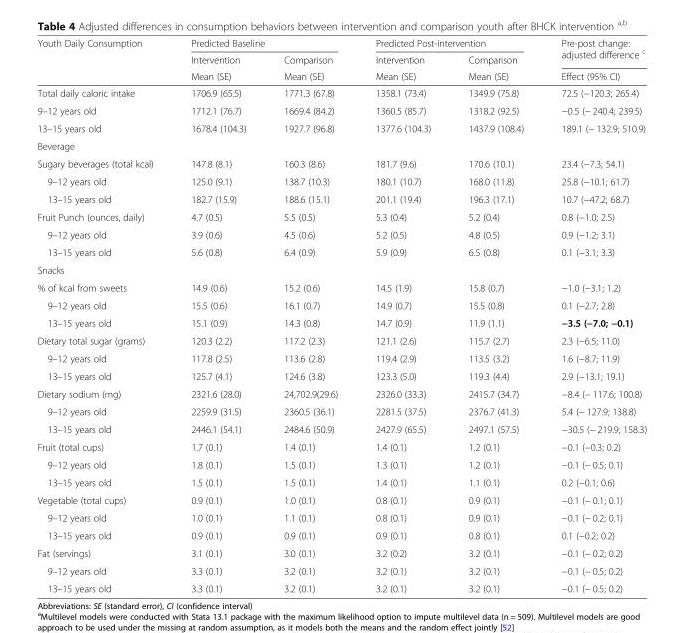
<table><thead><tr><td rowspan="3">Youth Daily Consumption</td><td colspan="2">Predicted Baseline</td><td colspan="2">Predicted Post-intervention</td><td rowspan="3">Pre-post change: adjusted difference <sup>c</sup> Effect (95% CI)</td></tr><tr><td rowspan="2">Intervention Mean (SE)</td><td rowspan="2">Comparison Mean (SE)</td><td rowspan="2">Intervention Mean (SE)</td><td rowspan="2">Comparison Mean (SE)</td></tr><tr></tr></thead><tbody><tr><td>Total daily caloric intake</td><td>1706.9 (65.5)</td><td>1771.3 (67.8)</td><td>1358.1 (73.4)</td><td>1349.9 (75.8)</td><td>72.5 (−120.3; 265.4)</td></tr><tr><td>9–12 years old</td><td>1712.1 (76.7)</td><td>1669.4 (84.2)</td><td>1360.5 (85.7)</td><td>1318.2 (92.5)</td><td>−0.5 (− 240.4; 239.5)</td></tr><tr><td>13–15 years old</td><td>1678.4 (104.3)</td><td>1927.7 (96.8)</td><td>1377.6 (104.3)</td><td>1437.9 (108.4)</td><td>189.1 (− 132.9; 510.9)</td></tr><tr><td colspan="6">Beverage</td></tr><tr><td>Sugary beverages (total kcal)</td><td>147.8 (8.1)</td><td>160.3 (8.6)</td><td>181.7 (9.6)</td><td>170.6 (10.1)</td><td>23.4 (−7.3; 54.1)</td></tr><tr><td>9–12 years old</td><td>125.0 (9.1)</td><td>138.7 (10.3)</td><td>180.1 (10.7)</td><td>168.0 (11.8)</td><td>25.8 (−10.1; 61.7)</td></tr><tr><td>13–15 years old</td><td>182.7 (15.9)</td><td>188.6 (15.1)</td><td>201.1 (19.4)</td><td>196.3 (17.1)</td><td>10.7 (−47.2; 68.7)</td></tr><tr><td>Fruit Punch (ounces, daily)</td><td>4.7 (0.5)</td><td>5.5 (0.5)</td><td>5.3 (0.4)</td><td>5.2 (0.4)</td><td>0.8 (−1.0; 2.5)</td></tr><tr><td>9–12 years old</td><td>3.9 (0.6)</td><td>4.5 (0.6)</td><td>5.2 (0.5)</td><td>4.8 (0.5)</td><td>0.9 (−1.2; 3.1)</td></tr><tr><td>13–15 years old</td><td>5.6 (0.8)</td><td>6.4 (0.9)</td><td>5.9 (0.9)</td><td>6.5 (0.8)</td><td>0.1 (−3.1; 3.3)</td></tr><tr><td colspan="6">Snacks</td></tr><tr><td>% of kcal from sweets</td><td>14.9 (0.6)</td><td>15.2 (0.6)</td><td>14.5 (1.9)</td><td>15.8 (0.7)</td><td>−1.0 (−3.1; 1.2)</td></tr><tr><td>9–12 years old</td><td>15.5 (0.6)</td><td>16.1 (0.7)</td><td>14.9 (0.7)</td><td>15.5 (0.8)</td><td>0.1 (−2.7; 2.8)</td></tr><tr><td>13–15 years old</td><td>15.1 (0.9)</td><td>14.3 (0.8)</td><td>14.7 (0.9)</td><td>11.9 (1.1)</td><td>−3.5 (−7.0; −0.1)</td></tr><tr><td>Dietary total sugar (grams)</td><td>120.3 (2.2)</td><td>117.2 (2.3)</td><td>121.1 (2.6)</td><td>115.7 (2.7)</td><td>2.3 (−6.5; 11.0)</td></tr><tr><td>9–12 years old</td><td>117.8 (2.5)</td><td>113.6 (2.8)</td><td>119.4 (2.9)</td><td>113.5 (3.2)</td><td>1.6 (−8.7; 11.9)</td></tr><tr><td>13–15 years old</td><td>125.7 (4.1)</td><td>124.6 (3.8)</td><td>123.3 (5.0)</td><td>119.3 (4.4)</td><td>2.9 (−13.1; 19.1)</td></tr><tr><td>Dietary sodium (mg)</td><td>2321.6 (28.0)</td><td>24,702.9(29.6)</td><td>2326.0 (33.3)</td><td>2415.7 (34.7)</td><td>−8.4 (− 117.6; 100.8)</td></tr><tr><td>9–12 years old</td><td>2259.9 (31.5)</td><td>2360.5 (36.1)</td><td>2281.5 (37.5)</td><td>2376.7 (41.3)</td><td>5.4 (− 127.9; 138.8)</td></tr><tr><td>13–15 years old</td><td>2446.1 (54.1)</td><td>2484.6 (50.9)</td><td>2427.9 (65.5)</td><td>2497.1 (57.5)</td><td>−30.5 (− 219.9; 158.3)</td></tr><tr><td>Fruit (total cups)</td><td>1.7 (0.1)</td><td>1.4 (0.1)</td><td>1.4 (0.1)</td><td>1.2 (0.1)</td><td>−0.1 (−0.3; 0.2)</td></tr><tr><td>9–12 years old</td><td>1.8 (0.1)</td><td>1.5 (0.1)</td><td>1.3 (0.1)</td><td>1.2 (0.1)</td><td>−0.1 (− 0.5; 0.1)</td></tr><tr><td>13–15 years old</td><td>1.5 (0.1)</td><td>1.5 (0.1)</td><td>1.4 (0.1)</td><td>1.1 (0.1)</td><td>0.2 (−0.1; 0.6)</td></tr><tr><td>Vegetable (total cups)</td><td>0.9 (0.1)</td><td>1.0 (0.1)</td><td>0.8 (0.1)</td><td>0.9 (0.1)</td><td>−0.1 (− 0.1; 0.1)</td></tr><tr><td>9–12 years old</td><td>1.0 (0.1)</td><td>1.1 (0.1)</td><td>0.8 (0.1)</td><td>0.9 (0.1)</td><td>−0.1 (− 0.2; 0.1)</td></tr><tr><td>13–15 years old</td><td>0.9 (0.1)</td><td>0.9 (0.1)</td><td>0.9 (0.1)</td><td>0.8 (0.1)</td><td>0.1 (−0.2; 0.2)</td></tr><tr><td>Fat (servings)</td><td>3.1 (0.1)</td><td>3.0 (0.1)</td><td>3.2 (0.2)</td><td>3.2 (0.1)</td><td>−0.1 (− 0.2; 0.2)</td></tr><tr><td>9–12 years old</td><td>3.3 (0.1)</td><td>3.2 (0.1)</td><td>3.2 (0.1)</td><td>3.2 (0.1)</td><td>−0.1 (− 0.5; 0.2)</td></tr><tr><td>13–15 years old</td><td>3.3 (0.1)</td><td>3.2 (0.1)</td><td>3.2 (0.1)</td><td>3.2 (0.1)</td><td>−0.1 (− 0.5; 0.2)</td></tr></tbody></table>